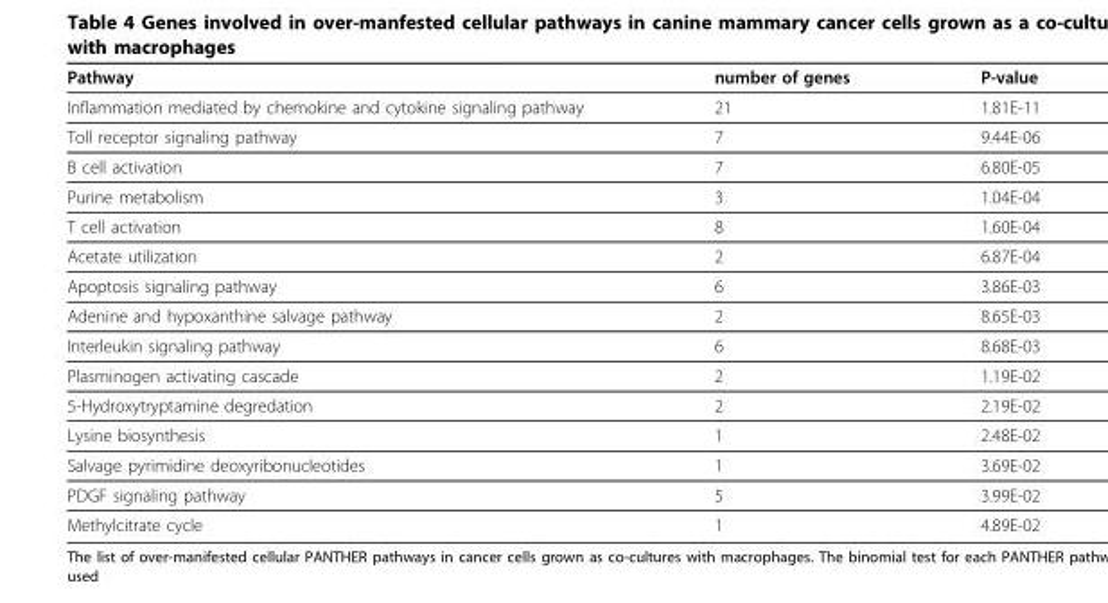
<table><thead><tr><td>Pathway</td><td>number of genes</td><td>P-value</td></tr></thead><tbody><tr><td>Inflammation mediated by chemokine and cytokine signaling pathway</td><td>21</td><td>1.81E-11</td></tr><tr><td>Toll receptor signaling pathway</td><td>7</td><td>9.44E-06</td></tr><tr><td>B cell activation</td><td>7</td><td>6.80E-05</td></tr><tr><td>Purine metabolism</td><td>3</td><td>1.04E-04</td></tr><tr><td>T cell activation</td><td>8</td><td>1.60E-04</td></tr><tr><td>Acetate utilization</td><td>2</td><td>6.87E-04</td></tr><tr><td>Apoptosis signaling pathway</td><td>6</td><td>3.86E-03</td></tr><tr><td>Adenine and hypoxanthine salvage pathway</td><td>2</td><td>8.65E-03</td></tr><tr><td>Interleukin signaling pathway</td><td>6</td><td>8.68E-03</td></tr><tr><td>Plasminogen activating cascade</td><td>2</td><td>1.19E-02</td></tr><tr><td>5-Hydroxytryptamine degredation</td><td>2</td><td>2.19E-02</td></tr><tr><td>Lysine biosynthesis</td><td>1</td><td>2.48E-02</td></tr><tr><td>Salvage pyrimidine deoxyribonucleotides</td><td>1</td><td>3.69E-02</td></tr><tr><td>PDGF signaling pathway</td><td>5</td><td>3.99E-02</td></tr><tr><td>Methylcitrate cycle</td><td>1</td><td>4.89E-02</td></tr></tbody></table>